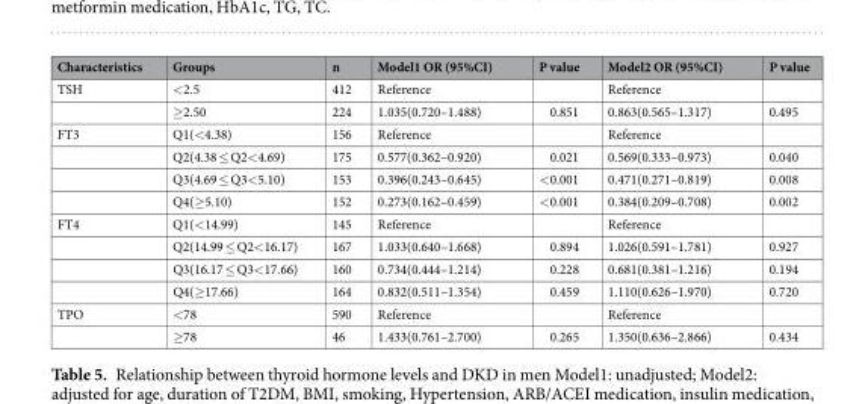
<table><thead><tr><td>Characteristics</td><td>Groups</td><td>n</td><td>Model1 OR (95%CI)</td><td>P value</td><td>Model2 OR (95%CI)</td><td>P value</td></tr></thead><tbody><tr><td rowspan="2">TSH</td><td>&lt;2.5</td><td>412</td><td>Reference</td><td></td><td>Reference</td><td></td></tr><tr><td>≥2.50</td><td>224</td><td>1.035(0.720–1.488)</td><td>0.851</td><td>0.863(0.565–1.317)</td><td>0.495</td></tr><tr><td rowspan="4">FT3</td><td>Q1(&lt;4.38)</td><td>156</td><td>Reference</td><td></td><td>Reference</td><td></td></tr><tr><td>Q2(4.38 ≤ Q2&lt;4.69)</td><td>175</td><td>0.577(0.362–0.920)</td><td>0.021</td><td>0.569(0.333–0.973)</td><td>0.040</td></tr><tr><td>Q3(4.69 ≤ Q3&lt;5.10)</td><td>153</td><td>0.396(0.243–0.645)</td><td>&lt;0.001</td><td>0.471(0.271–0.819)</td><td>0.008</td></tr><tr><td>Q4(≥5.10)</td><td>152</td><td>0.273(0.162–0.459)</td><td>&lt;0.001</td><td>0.384(0.209–0.708)</td><td>0.002</td></tr><tr><td rowspan="4">FT4</td><td>Q1(&lt;14.99)</td><td>145</td><td>Reference</td><td></td><td>Reference</td><td></td></tr><tr><td>Q2(14.99 ≤ Q2&lt;16.17)</td><td>167</td><td>1.033(0.640–1.668)</td><td>0.894</td><td>1.026(0.591–1.781)</td><td>0.927</td></tr><tr><td>Q3(16.17 ≤ Q3&lt;17.66)</td><td>160</td><td>0.734(0.444–1.214)</td><td>0.228</td><td>0.681(0.381–1.216)</td><td>0.194</td></tr><tr><td>Q4(≥17.66)</td><td>164</td><td>0.832(0.511–1.354)</td><td>0.459</td><td>1.110(0.626–1.970)</td><td>0.720</td></tr><tr><td rowspan="2">TPO</td><td>&lt;78</td><td>590</td><td>Reference</td><td></td><td>Reference</td><td></td></tr><tr><td>≥78</td><td>46</td><td>1.433(0.761–2.700)</td><td>0.265</td><td>1.350(0.636–2.866)</td><td>0.434</td></tr></tbody></table>